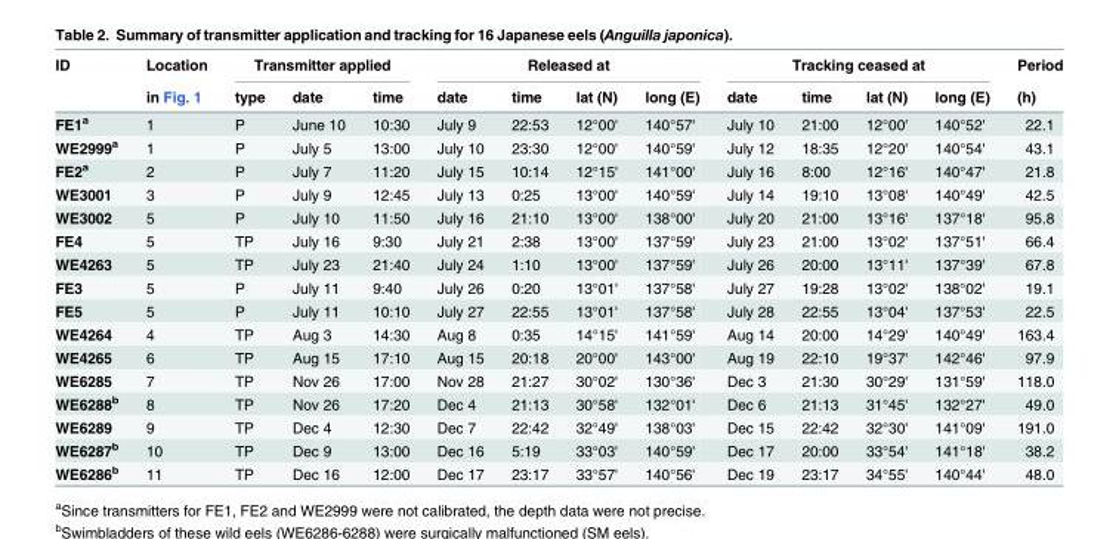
<table><thead><tr><td rowspan="2">ID</td><td rowspan="2">Location in Fig. 1</td><td colspan="3">Transmitter applied</td><td colspan="4">Released at</td><td colspan="4">Tracking ceased at</td><td rowspan="2">Period (h)</td></tr><tr><td>type</td><td>date</td><td>time</td><td>date</td><td>time</td><td>lat (N)</td><td>long (E)</td><td>date</td><td>time</td><td>lat (N)</td><td>long (E)</td></tr></thead><tbody><tr><td>FE1<sup>a</sup></td><td>1</td><td>P</td><td>June 10</td><td>10:30</td><td>July 9</td><td>22:53</td><td>12°00&#x27;</td><td>140°57&#x27;</td><td>July 10</td><td>21:00</td><td>12°00&#x27;</td><td>140°52&#x27;</td><td>22.1</td></tr><tr><td>WE2999<sup>a</sup></td><td>1</td><td>P</td><td>July 5</td><td>13:00</td><td>July 10</td><td>23:30</td><td>12°00&#x27;</td><td>140°59&#x27;</td><td>July 12</td><td>18:35</td><td>12°20&#x27;</td><td>140°54&#x27;</td><td>43.1</td></tr><tr><td>FE2<sup>a</sup></td><td>2</td><td>P</td><td>July 7</td><td>11:20</td><td>July 15</td><td>10:14</td><td>12°15&#x27;</td><td>141°00&#x27;</td><td>July 16</td><td>8:00</td><td>12°16&#x27;</td><td>140°47&#x27;</td><td>21.8</td></tr><tr><td>WE3001</td><td>3</td><td>P</td><td>July 9</td><td>12:45</td><td>July 13</td><td>0:25</td><td>13°00&#x27;</td><td>140°59&#x27;</td><td>July 14</td><td>19:10</td><td>13°08&#x27;</td><td>140°49&#x27;</td><td>42.5</td></tr><tr><td>WE3002</td><td>5</td><td>P</td><td>July 10</td><td>11:50</td><td>July 16</td><td>21:10</td><td>13°00&#x27;</td><td>138°00&#x27;</td><td>July 20</td><td>21:00</td><td>13°16&#x27;</td><td>137°18&#x27;</td><td>95.8</td></tr><tr><td>FE4</td><td>5</td><td>TP</td><td>July 16</td><td>9:30</td><td>July 21</td><td>2:38</td><td>13°00&#x27;</td><td>137°59&#x27;</td><td>July 23</td><td>21:00</td><td>13°02&#x27;</td><td>137°51&#x27;</td><td>66.4</td></tr><tr><td>WE4263</td><td>5</td><td>TP</td><td>July 23</td><td>21:40</td><td>July 24</td><td>1:10</td><td>13°00&#x27;</td><td>137°59&#x27;</td><td>July 26</td><td>20:00</td><td>13°11&#x27;</td><td>137°39&#x27;</td><td>67.8</td></tr><tr><td>FE3</td><td>5</td><td>P</td><td>July 11</td><td>9:40</td><td>July 26</td><td>0:20</td><td>13°01&#x27;</td><td>137°58&#x27;</td><td>July 27</td><td>19:28</td><td>13°02&#x27;</td><td>138°02&#x27;</td><td>19.1</td></tr><tr><td>FE5</td><td>5</td><td>P</td><td>July 11</td><td>10:10</td><td>July 27</td><td>22:55</td><td>13°01&#x27;</td><td>137°58&#x27;</td><td>July 28</td><td>22:55</td><td>13°04&#x27;</td><td>137°53&#x27;</td><td>22.5</td></tr><tr><td>WE4264</td><td>4</td><td>TP</td><td>Aug 3</td><td>14:30</td><td>Aug 8</td><td>0:35</td><td>14°15&#x27;</td><td>141°59&#x27;</td><td>Aug 14</td><td>20:00</td><td>14°29&#x27;</td><td>140°49&#x27;</td><td>163.4</td></tr><tr><td>WE4265</td><td>6</td><td>TP</td><td>Aug 15</td><td>17:10</td><td>Aug 15</td><td>20:18</td><td>20°00&#x27;</td><td>143°00&#x27;</td><td>Aug 19</td><td>22:10</td><td>19°37&#x27;</td><td>142°46&#x27;</td><td>97.9</td></tr><tr><td>WE6285</td><td>7</td><td>TP</td><td>Nov 26</td><td>17:00</td><td>Nov 28</td><td>21:27</td><td>30°02&#x27;</td><td>130°36&#x27;</td><td>Dec 3</td><td>21:30</td><td>30°29&#x27;</td><td>131°59&#x27;</td><td>118.0</td></tr><tr><td>WE6288<sup>b</sup></td><td>8</td><td>TP</td><td>Nov 26</td><td>17:20</td><td>Dec 4</td><td>21:13</td><td>30°58&#x27;</td><td>132°01&#x27;</td><td>Dec 6</td><td>21:13</td><td>31°45&#x27;</td><td>132°27&#x27;</td><td>49.0</td></tr><tr><td>WE6289</td><td>9</td><td>TP</td><td>Dec 4</td><td>12:30</td><td>Dec 7</td><td>22:42</td><td>32°49&#x27;</td><td>138°03&#x27;</td><td>Dec 15</td><td>22:42</td><td>32°30&#x27;</td><td>141°09&#x27;</td><td>191.0</td></tr><tr><td>WE6287<sup>b</sup></td><td>10</td><td>TP</td><td>Dec 9</td><td>13:00</td><td>Dec 16</td><td>5:19</td><td>33°03&#x27;</td><td>140°59&#x27;</td><td>Dec 17</td><td>20:00</td><td>33°54&#x27;</td><td>141°18&#x27;</td><td>38.2</td></tr><tr><td>WE6286<sup>b</sup></td><td>11</td><td>TP</td><td>Dec 16</td><td>12:00</td><td>Dec 17</td><td>23:17</td><td>33°57&#x27;</td><td>140°56&#x27;</td><td>Dec 19</td><td>23:17</td><td>34°55&#x27;</td><td>140°44&#x27;</td><td>48.0</td></tr></tbody></table>